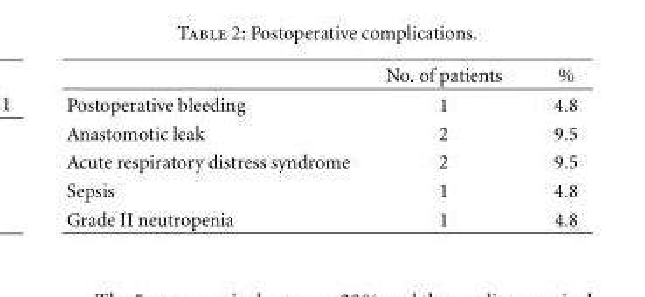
<table><thead><tr><td></td><td>No. of patients</td><td>%</td></tr></thead><tbody><tr><td>Postoperative bleeding</td><td>1</td><td>4.8</td></tr><tr><td>Anastomotic leak</td><td>2</td><td>9.5</td></tr><tr><td>Acute respiratory distress syndrome</td><td>2</td><td>9.5</td></tr><tr><td>Sepsis</td><td>1</td><td>4.8</td></tr><tr><td>Grade II neutropenia</td><td>1</td><td>4.8</td></tr></tbody></table>